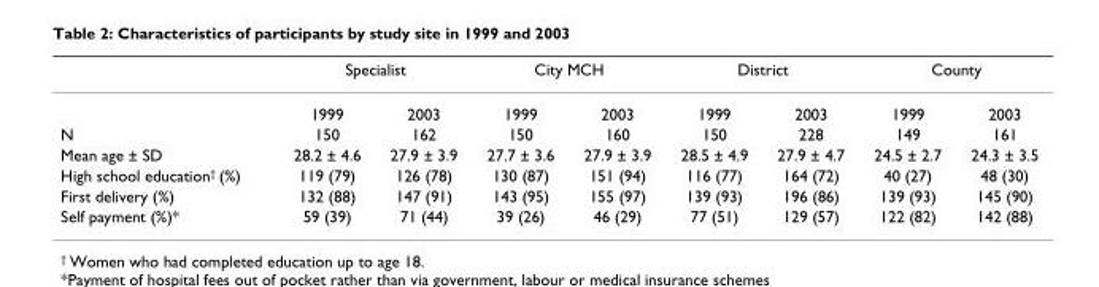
<table><thead><tr><td rowspan="2"></td><td colspan="2">Specialist</td><td colspan="2">City MCH</td><td colspan="2">District</td><td colspan="2">County</td></tr><tr><td>1999</td><td>2003</td><td>1999</td><td>2003</td><td>1999</td><td>2003</td><td>1999</td><td>2003</td></tr></thead><tbody><tr><td>N</td><td>150</td><td>162</td><td>150</td><td>160</td><td>150</td><td>228</td><td>149</td><td>161</td></tr><tr><td>Mean age ± SD</td><td>28.2 ± 4.6</td><td>27.9 ± 3.9</td><td>27.7 ± 3.6</td><td>27.9 ± 3.9</td><td>28.5 ± 4.9</td><td>27.9 ± 4.7</td><td>24.5 ± 2.7</td><td>24.3 ± 3.5</td></tr><tr><td>High school education† (%)</td><td>119 (79)</td><td>126 (78)</td><td>130 (87)</td><td>151 (94)</td><td>116 (77)</td><td>164 (72)</td><td>40 (27)</td><td>48 (30)</td></tr><tr><td>First delivery (%)</td><td>132 (88)</td><td>147 (91)</td><td>143 (95)</td><td>155 (97)</td><td>139 (93)</td><td>196 (86)</td><td>139 (93)</td><td>145 (90)</td></tr><tr><td>Self payment (%)*</td><td>59 (39)</td><td>71 (44)</td><td>39 (26)</td><td>46 (29)</td><td>77 (51)</td><td>129 (57)</td><td>122 (82)</td><td>142 (88)</td></tr></tbody></table>